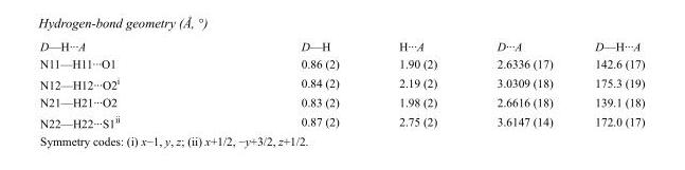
<table><tbody><tr><td>D—H···A</td><td>D—H</td><td>H···A</td><td>D···A</td><td>D—H···A</td></tr><tr><td>N11—H11···O1</td><td>0.86 (2)</td><td>1.90 (2)</td><td>2.6336 (17)</td><td>142.6 (17)</td></tr><tr><td>N12—H12···O2<sup>i</sup></td><td>0.84 (2)</td><td>2.19 (2)</td><td>3.0309 (18)</td><td>175.3 (19)</td></tr><tr><td>N21—H21···O2</td><td>0.83 (2)</td><td>1.98 (2)</td><td>2.6616 (18)</td><td>139.1 (18)</td></tr><tr><td>N22—H22···S1<sup>ii</sup></td><td>0.87 (2)</td><td>2.75 (2)</td><td>3.6147 (14)</td><td>172.0 (17)</td></tr></tbody></table>